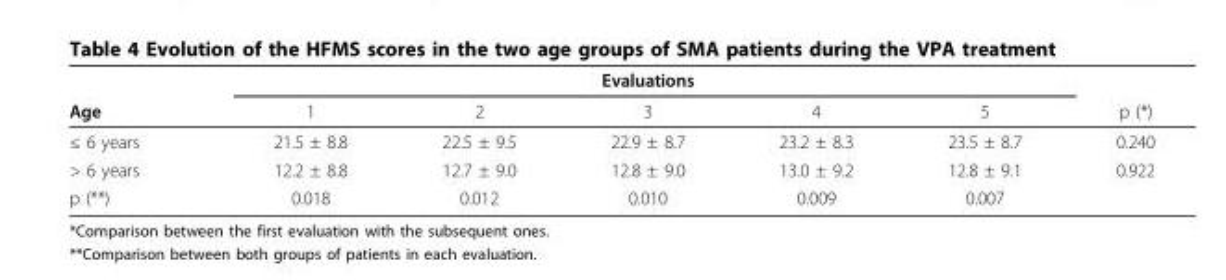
<table><thead><tr><td rowspan="2">Age</td><td colspan="5">Evaluations</td><td rowspan="2">p (*)</td></tr><tr><td>1</td><td>2</td><td>3</td><td>4</td><td>5</td></tr></thead><tbody><tr><td>≤ 6 years</td><td>21.5 ± 8.8</td><td>22.5 ± 9.5</td><td>22.9 ± 8.7</td><td>23.2 ± 8.3</td><td>23.5 ± 8.7</td><td>0.240</td></tr><tr><td>&gt; 6 years</td><td>12.2 ± 8.8</td><td>12.7 ± 9.0</td><td>12.8 ± 9.0</td><td>13.0 ± 9.2</td><td>12.8 ± 9.1</td><td>0.922</td></tr><tr><td>p (**)</td><td>0.018</td><td>0.012</td><td>0.010</td><td>0.009</td><td>0.007</td><td></td></tr></tbody></table>